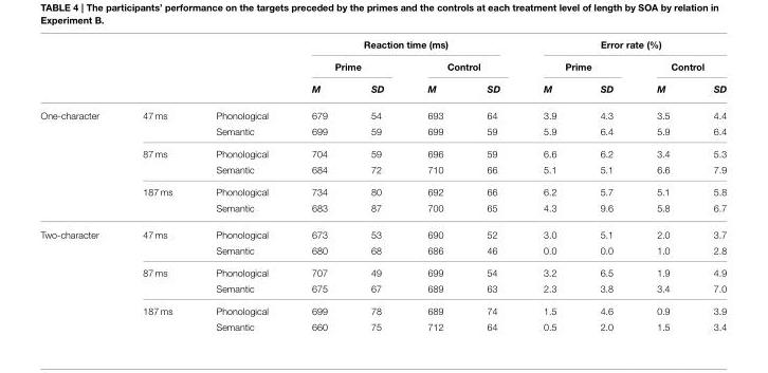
<table><thead><tr><td rowspan="3"></td><td rowspan="3"></td><td rowspan="3"></td><td colspan="4">Reaction time (ms)</td><td colspan="4">Error rate (%)</td></tr><tr><td colspan="2">Prime</td><td colspan="2">Control</td><td colspan="2">Prime</td><td colspan="2">Control</td></tr><tr><td>M</td><td>SD</td><td>M</td><td>SD</td><td>M</td><td>SD</td><td>M</td><td>SD</td></tr></thead><tbody><tr><td rowspan="6">One-character</td><td>47 ms</td><td>Phonological</td><td>679</td><td>54</td><td>693</td><td>64</td><td>3.9</td><td>4.3</td><td>3.5</td><td>4.4</td></tr><tr><td></td><td>Semantic</td><td>699</td><td>59</td><td>699</td><td>59</td><td>5.9</td><td>6.4</td><td>5.9</td><td>6.4</td></tr><tr><td>87 ms</td><td>Phonological</td><td>704</td><td>59</td><td>696</td><td>59</td><td>6.6</td><td>6.2</td><td>3.4</td><td>5.3</td></tr><tr><td></td><td>Semantic</td><td>684</td><td>72</td><td>710</td><td>66</td><td>5.1</td><td>5.1</td><td>6.6</td><td>7.9</td></tr><tr><td>187 ms</td><td>Phonological</td><td>734</td><td>80</td><td>692</td><td>66</td><td>6.2</td><td>5.7</td><td>5.1</td><td>5.8</td></tr><tr><td></td><td>Semantic</td><td>683</td><td>87</td><td>700</td><td>65</td><td>4.3</td><td>9.6</td><td>5.8</td><td>6.7</td></tr><tr><td rowspan="6">Two-character</td><td>47 ms</td><td>Phonological</td><td>673</td><td>53</td><td>690</td><td>52</td><td>3.0</td><td>5.1</td><td>2.0</td><td>3.7</td></tr><tr><td></td><td>Semantic</td><td>680</td><td>68</td><td>686</td><td>46</td><td>0.0</td><td>0.0</td><td>1.0</td><td>2.8</td></tr><tr><td>87 ms</td><td>Phonological</td><td>707</td><td>49</td><td>699</td><td>54</td><td>3.2</td><td>6.5</td><td>1.9</td><td>4.9</td></tr><tr><td></td><td>Semantic</td><td>675</td><td>67</td><td>689</td><td>63</td><td>2.3</td><td>3.8</td><td>3.4</td><td>7.0</td></tr><tr><td>187 ms</td><td>Phonological</td><td>699</td><td>78</td><td>689</td><td>74</td><td>1.5</td><td>4.6</td><td>0.9</td><td>3.9</td></tr><tr><td></td><td>Semantic</td><td>660</td><td>75</td><td>712</td><td>64</td><td>0.5</td><td>2.0</td><td>1.5</td><td>3.4</td></tr></tbody></table>